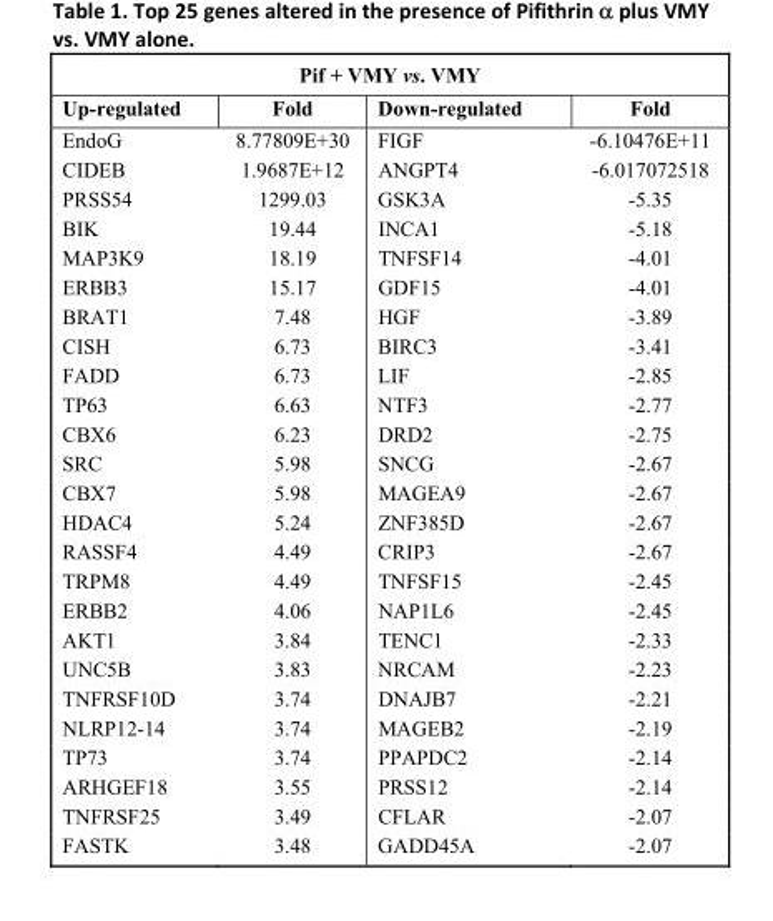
<table><thead><tr><td colspan="4">Pif + VMY vs. VMY</td></tr><tr><td>Up-regulated</td><td>Fold</td><td>Down-regulated</td><td>Fold</td></tr></thead><tbody><tr><td>EndoG</td><td>8.77809E+30</td><td>FIGF</td><td>-6.10476E+11</td></tr><tr><td>CIDEB</td><td>1.9687E+12</td><td>ANGPT4</td><td>-6.017072518</td></tr><tr><td>PRSS54</td><td>1299.03</td><td>GSK3A</td><td>-5.35</td></tr><tr><td>BIK</td><td>19.44</td><td>INCA1</td><td>-5.18</td></tr><tr><td>MAP3K9</td><td>18.19</td><td>TNFSF14</td><td>-4.01</td></tr><tr><td>ERBB3</td><td>15.17</td><td>GDF15</td><td>-4.01</td></tr><tr><td>BRAT1</td><td>7.48</td><td>HGF</td><td>-3.89</td></tr><tr><td>CISH</td><td>6.73</td><td>BIRC3</td><td>-3.41</td></tr><tr><td>FADD</td><td>6.73</td><td>LIF</td><td>-2.85</td></tr><tr><td>TP63</td><td>6.63</td><td>NTF3</td><td>-2.77</td></tr><tr><td>CBX6</td><td>6.23</td><td>DRD2</td><td>-2.75</td></tr><tr><td>SRC</td><td>5.98</td><td>SNCG</td><td>-2.67</td></tr><tr><td>CBX7</td><td>5.98</td><td>MAGEA9</td><td>-2.67</td></tr><tr><td>HDAC4</td><td>5.24</td><td>ZNF385D</td><td>-2.67</td></tr><tr><td>RASSF4</td><td>4.49</td><td>CRIP3</td><td>-2.67</td></tr><tr><td>TRPM8</td><td>4.49</td><td>TNFSF15</td><td>-2.45</td></tr><tr><td>ERBB2</td><td>4.06</td><td>NAP1L6</td><td>-2.45</td></tr><tr><td>AKT1</td><td>3.84</td><td>TENC1</td><td>-2.33</td></tr><tr><td>UNC5B</td><td>3.83</td><td>NRCAM</td><td>-2.23</td></tr><tr><td>TNFRSF10D</td><td>3.74</td><td>DNAJB7</td><td>-2.21</td></tr><tr><td>NLRP12-14</td><td>3.74</td><td>MAGEB2</td><td>-2.19</td></tr><tr><td>TP73</td><td>3.74</td><td>PPAPDC2</td><td>-2.14</td></tr><tr><td>ARHGEF18</td><td>3.55</td><td>PRSS12</td><td>-2.14</td></tr><tr><td>TNFRSF25</td><td>3.49</td><td>CFLAR</td><td>-2.07</td></tr><tr><td>FASTK</td><td>3.48</td><td>GADD45A</td><td>-2.07</td></tr></tbody></table>